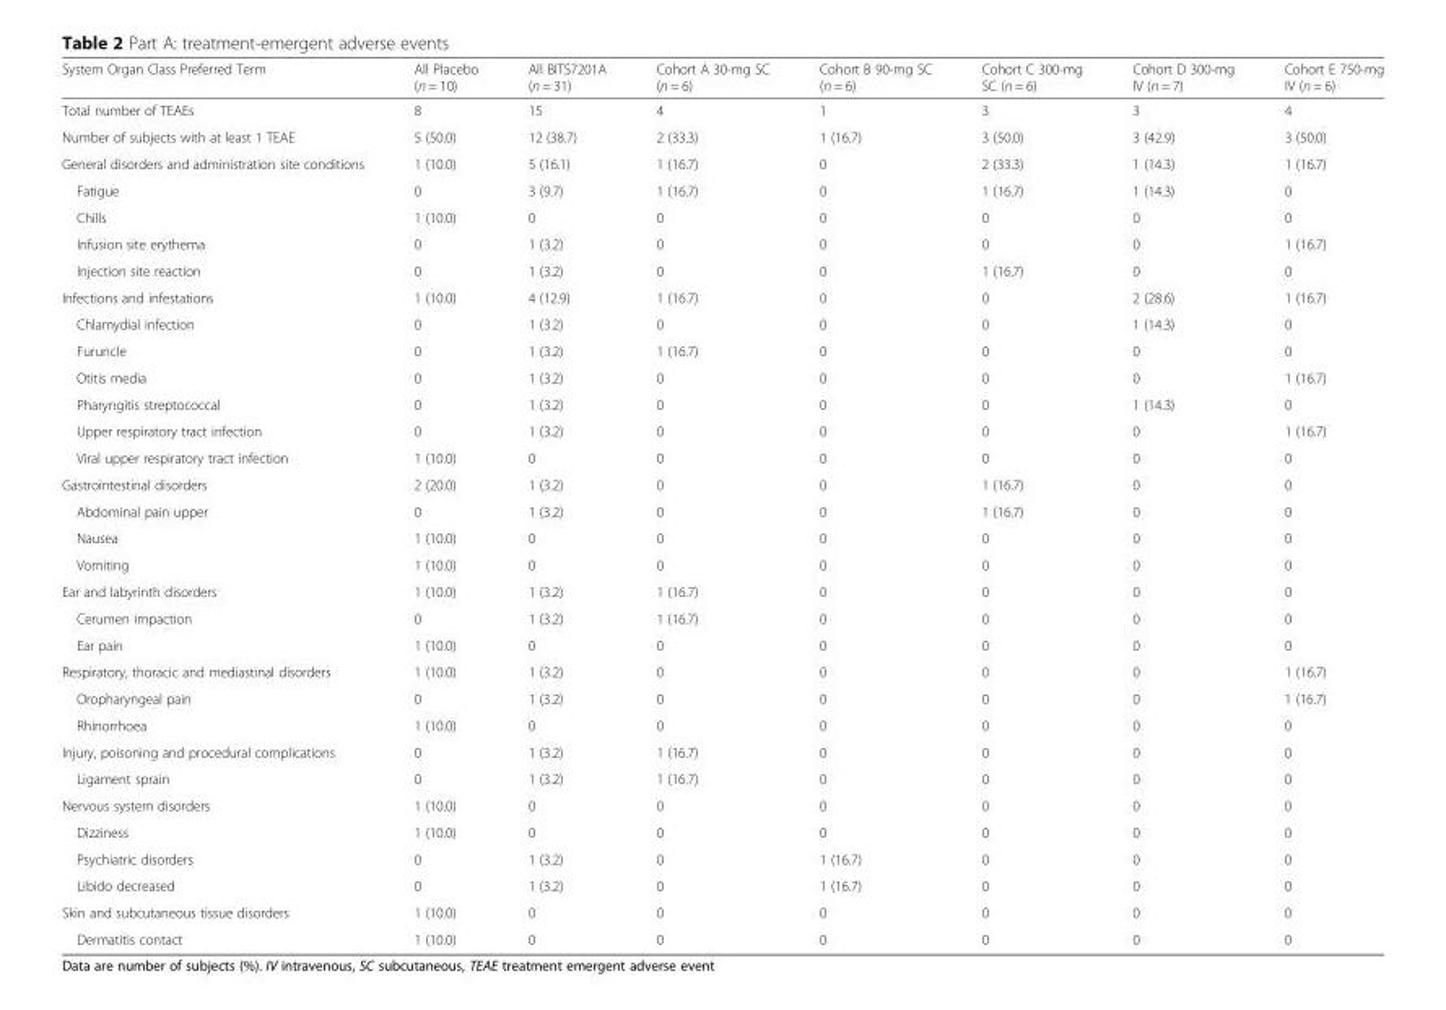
<table><thead><tr><td>System Organ Class Preferred Term</td><td>All Placebo (n = 10)</td><td>All BITS7201A (n = 31)</td><td>Cohort A 30-mg SC (n = 6)</td><td>Cohort B 90-mg SC (n = 6)</td><td>Cohort C 300-mg SC (n = 6)</td><td>Cohort D 300-mg IV (n = 7)</td><td>Cohort E 750-mg IV (n = 6)</td></tr></thead><tbody><tr><td>Total number of TEAEs</td><td>8</td><td>15</td><td>4</td><td>1</td><td>3</td><td>3</td><td>4</td></tr><tr><td>Number of subjects with at least 1 TEAE</td><td>5 (50.0)</td><td>12 (38.7)</td><td>2 (33.3)</td><td>1 (16.7)</td><td>3 (50.0)</td><td>3 (42.9)</td><td>3 (50.0)</td></tr><tr><td>General disorders and administration site conditions</td><td>1 (10.0)</td><td>5 (16.1)</td><td>1 (16.7)</td><td>0</td><td>2 (33.3)</td><td>1 (14.3)</td><td>1 (16.7)</td></tr><tr><td>Fatigue</td><td>0</td><td>3 (9.7)</td><td>1 (16.7)</td><td>0</td><td>1 (16.7)</td><td>1 (14.3)</td><td>0</td></tr><tr><td>Chills</td><td>1 (10.0)</td><td>0</td><td>0</td><td>0</td><td>0</td><td>0</td><td>0</td></tr><tr><td>Infusion site erythema</td><td>0</td><td>1 (3.2)</td><td>0</td><td>0</td><td>0</td><td>0</td><td>1 (16.7)</td></tr><tr><td>Injection site reaction</td><td>0</td><td>1 (3.2)</td><td>0</td><td>0</td><td>1 (16.7)</td><td>0</td><td>0</td></tr><tr><td>Infections and infestations</td><td>1 (10.0)</td><td>4 (12.9)</td><td>1 (16.7)</td><td>0</td><td>0</td><td>2 (28.6)</td><td>1 (16.7)</td></tr><tr><td>Chlamydial infection</td><td>0</td><td>1 (3.2)</td><td>0</td><td>0</td><td>0</td><td>1 (14.3)</td><td>0</td></tr><tr><td>Furuncle</td><td>0</td><td>1 (3.2)</td><td>1 (16.7)</td><td>0</td><td>0</td><td>0</td><td>0</td></tr><tr><td>Otitis media</td><td>0</td><td>1 (3.2)</td><td>0</td><td>0</td><td>0</td><td>0</td><td>1 (16.7)</td></tr><tr><td>Pharyngitis streptococcal</td><td>0</td><td>1 (3.2)</td><td>0</td><td>0</td><td>0</td><td>1 (14.3)</td><td>0</td></tr><tr><td>Upper respiratory tract infection</td><td>0</td><td>1 (3.2)</td><td>0</td><td>0</td><td>0</td><td>0</td><td>1 (16.7)</td></tr><tr><td>Viral upper respiratory tract infection</td><td>1 (10.0)</td><td>0</td><td>0</td><td>0</td><td>0</td><td>0</td><td>0</td></tr><tr><td>Gastrointestinal disorders</td><td>2 (20.0)</td><td>1 (3.2)</td><td>0</td><td>0</td><td>1 (16.7)</td><td>0</td><td>0</td></tr><tr><td>Abdominal pain upper</td><td>0</td><td>1 (3.2)</td><td>0</td><td>0</td><td>1 (16.7)</td><td>0</td><td>0</td></tr><tr><td>Nausea</td><td>1 (10.0)</td><td>0</td><td>0</td><td>0</td><td>0</td><td>0</td><td>0</td></tr><tr><td>Vomiting</td><td>1 (10.0)</td><td>0</td><td>0</td><td>0</td><td>0</td><td>0</td><td>0</td></tr><tr><td>Ear and labyrinth disorders</td><td>1 (10.0)</td><td>1 (3.2)</td><td>1 (16.7)</td><td>0</td><td>0</td><td>0</td><td>0</td></tr><tr><td>Cerumen impaction</td><td>0</td><td>1 (3.2)</td><td>1 (16.7)</td><td>0</td><td>0</td><td>0</td><td>0</td></tr><tr><td>Ear pain</td><td>1 (10.0)</td><td>0</td><td>0</td><td>0</td><td>0</td><td>0</td><td>0</td></tr><tr><td>Respiratory, thoracic and mediastinal disorders</td><td>1 (10.0)</td><td>1 (3.2)</td><td>0</td><td>0</td><td>0</td><td>0</td><td>1 (16.7)</td></tr><tr><td>Oropharyngeal pain</td><td>0</td><td>1 (3.2)</td><td>0</td><td>0</td><td>0</td><td>0</td><td>1 (16.7)</td></tr><tr><td>Rhinorrhoea</td><td>1 (10.0)</td><td>0</td><td>0</td><td>0</td><td>0</td><td>0</td><td>0</td></tr><tr><td>Injury, poisoning and procedural complications</td><td>0</td><td>1 (3.2)</td><td>1 (16.7)</td><td>0</td><td>0</td><td>0</td><td>0</td></tr><tr><td>Ligament sprain</td><td>0</td><td>1 (3.2)</td><td>1 (16.7)</td><td>0</td><td>0</td><td>0</td><td>0</td></tr><tr><td>Nervous system disorders</td><td>1 (10.0)</td><td>0</td><td>0</td><td>0</td><td>0</td><td>0</td><td>0</td></tr><tr><td>Dizziness</td><td>1 (10.0)</td><td>0</td><td>0</td><td>0</td><td>0</td><td>0</td><td>0</td></tr><tr><td>Psychiatric disorders</td><td>0</td><td>1 (3.2)</td><td>0</td><td>1 (16.7)</td><td>0</td><td>0</td><td>0</td></tr><tr><td>Libido decreased</td><td>0</td><td>1 (3.2)</td><td>0</td><td>1 (16.7)</td><td>0</td><td>0</td><td>0</td></tr><tr><td>Skin and subcutaneous tissue disorders</td><td>1 (10.0)</td><td>0</td><td>0</td><td>0</td><td>0</td><td>0</td><td>0</td></tr><tr><td>Dermatitis contact</td><td>1 (10.0)</td><td>0</td><td>0</td><td>0</td><td>0</td><td>0</td><td>0</td></tr></tbody></table>